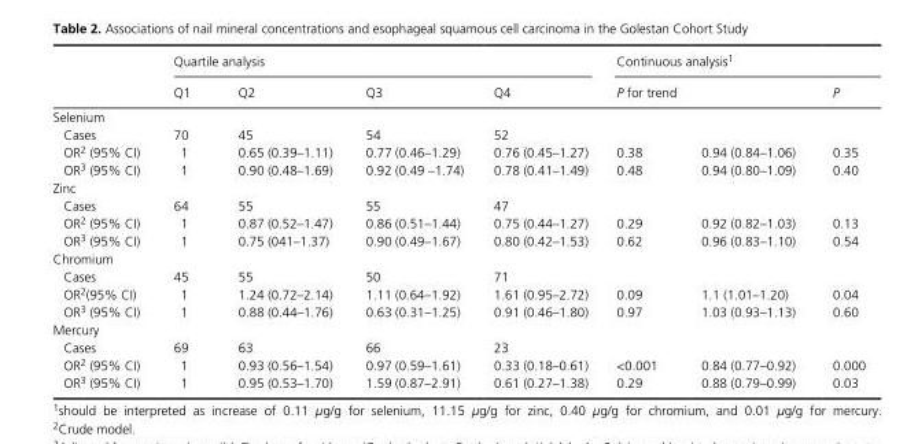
<table><thead><tr><td rowspan="2"></td><td colspan="4">Quartile analysis</td><td colspan="3">Continuous analysis1</td></tr><tr><td>Q1</td><td>Q2</td><td>Q3</td><td>Q4</td><td>P for trend</td><td></td><td>P</td></tr></thead><tbody><tr><td colspan="8">Selenium</td></tr><tr><td>Cases</td><td>70</td><td>45</td><td>54</td><td>52</td><td></td><td></td><td></td></tr><tr><td>OR2 (95% CI)</td><td>1</td><td>0.65 (0.39–1.11)</td><td>0.77 (0.46–1.29)</td><td>0.76 (0.45–1.27)</td><td>0.38</td><td>0.94 (0.84–1.06)</td><td>0.35</td></tr><tr><td>OR3 (95% CI)</td><td>1</td><td>0.90 (0.48–1.69)</td><td>0.92 (0.49 –1.74)</td><td>0.78 (0.41–1.49)</td><td>0.48</td><td>0.94 (0.80–1.09)</td><td>0.40</td></tr><tr><td colspan="8">Zinc</td></tr><tr><td>Cases</td><td>64</td><td>55</td><td>55</td><td>47</td><td></td><td></td><td></td></tr><tr><td>OR2 (95% CI)</td><td>1</td><td>0.87 (0.52–1.47)</td><td>0.86 (0.51–1.44)</td><td>0.75 (0.44–1.27)</td><td>0.29</td><td>0.92 (0.82–1.03)</td><td>0.13</td></tr><tr><td>OR3 (95% CI)</td><td>1</td><td>0.75 (041–1.37)</td><td>0.90 (0.49–1.67)</td><td>0.80 (0.42–1.53)</td><td>0.62</td><td>0.96 (0.83–1.10)</td><td>0.54</td></tr><tr><td colspan="8">Chromium</td></tr><tr><td>Cases</td><td>45</td><td>55</td><td>50</td><td>71</td><td></td><td></td><td></td></tr><tr><td>OR2(95% CI)</td><td>1</td><td>1.24 (0.72–2.14)</td><td>1.11 (0.64–1.92)</td><td>1.61 (0.95–2.72)</td><td>0.09</td><td>1.1 (1.01–1.20)</td><td>0.04</td></tr><tr><td>OR3 (95% CI)</td><td>1</td><td>0.88 (0.44–1.76)</td><td>0.63 (0.31–1.25)</td><td>0.91 (0.46–1.80)</td><td>0.97</td><td>1.03 (0.93–1.13)</td><td>0.60</td></tr><tr><td colspan="8">Mercury</td></tr><tr><td>Cases</td><td>69</td><td>63</td><td>66</td><td>23</td><td></td><td></td><td></td></tr><tr><td>OR2 (95% CI)</td><td>1</td><td>0.93 (0.56–1.54)</td><td>0.97 (0.59–1.61)</td><td>0.33 (0.18–0.61)</td><td>&lt;0.001</td><td>0.84 (0.77–0.92)</td><td>0.000</td></tr><tr><td>OR3 (95% CI)</td><td>1</td><td>0.95 (0.53–1.70)</td><td>1.59 (0.87–2.91)</td><td>0.61 (0.27–1.38)</td><td>0.29</td><td>0.88 (0.79–0.99)</td><td>0.03</td></tr></tbody></table>